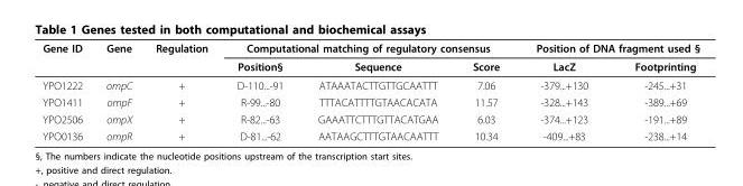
<table><thead><tr><td rowspan="2">Gene ID</td><td rowspan="2">Gene</td><td rowspan="2">Regulation</td><td colspan="3">Computational matching of regulatory consensus</td><td colspan="2">Position of DNA fragment used §</td></tr><tr><td>Position§</td><td>Sequence</td><td>Score</td><td>LacZ</td><td>Footprinting</td></tr></thead><tbody><tr><td>YPO1222</td><td>ompC</td><td>+</td><td>D-110...-91</td><td>ATAAATACTTGTTGCAATTT</td><td>7.06</td><td>-379...+130</td><td>-245...+31</td></tr><tr><td>YPO1411</td><td>ompF</td><td>+</td><td>R-99...-80</td><td>TTTACATTTTGTAACACATA</td><td>11.57</td><td>-328...+143</td><td>-389...+69</td></tr><tr><td>YPO2506</td><td>ompX</td><td>+</td><td>R-82...-63</td><td>GAAATTCTTTGTTACATGAA</td><td>6.03</td><td>-374...+123</td><td>-191...+89</td></tr><tr><td>YPO0136</td><td>ompR</td><td>+</td><td>D-81...-62</td><td>AATAAGCTTTGTAACAATTT</td><td>10.34</td><td>-409...+83</td><td>-238...+14</td></tr></tbody></table>